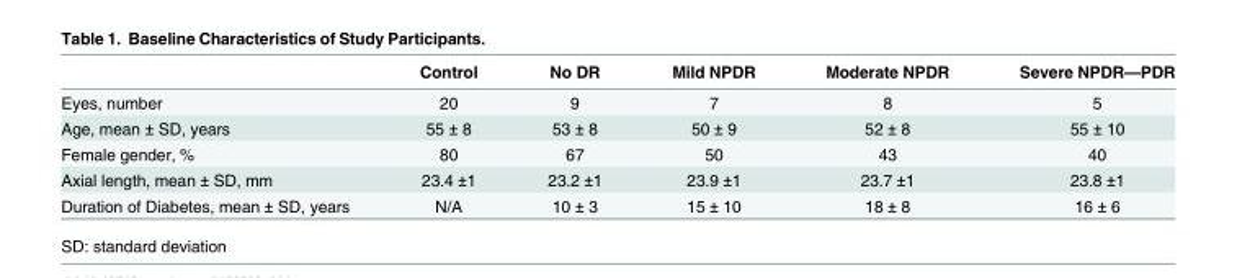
<table><thead><tr><td></td><td>Control</td><td>No DR</td><td>Mild NPDR</td><td>Moderate NPDR</td><td>Severe NPDR—PDR</td></tr></thead><tbody><tr><td>Eyes, number</td><td>20</td><td>9</td><td>7</td><td>8</td><td>5</td></tr><tr><td>Age, mean ± SD, years</td><td>55 ± 8</td><td>53 ± 8</td><td>50 ± 9</td><td>52 ± 8</td><td>55 ± 10</td></tr><tr><td>Female gender, %</td><td>80</td><td>67</td><td>50</td><td>43</td><td>40</td></tr><tr><td>Axial length, mean ± SD, mm</td><td>23.4 ±1</td><td>23.2 ±1</td><td>23.9 ±1</td><td>23.7 ±1</td><td>23.8 ±1</td></tr><tr><td>Duration of Diabetes, mean ± SD, years</td><td>N/A</td><td>10 ± 3</td><td>15 ± 10</td><td>18 ± 8</td><td>16 ± 6</td></tr></tbody></table>